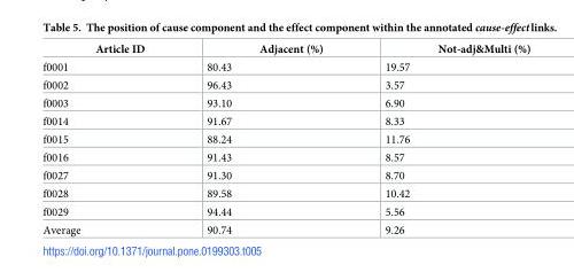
<table><thead><tr><td>Article ID</td><td>Adjacent (%)</td><td>Not-adj&amp;Multi (%)</td></tr></thead><tbody><tr><td>f0001</td><td>80.43</td><td>19.57</td></tr><tr><td>f0002</td><td>96.43</td><td>3.57</td></tr><tr><td>f0003</td><td>93.10</td><td>6.90</td></tr><tr><td>f0014</td><td>91.67</td><td>8.33</td></tr><tr><td>f0015</td><td>88.24</td><td>11.76</td></tr><tr><td>f0016</td><td>91.43</td><td>8.57</td></tr><tr><td>f0027</td><td>91.30</td><td>8.70</td></tr><tr><td>f0028</td><td>89.58</td><td>10.42</td></tr><tr><td>f0029</td><td>94.44</td><td>5.56</td></tr><tr><td>Average</td><td>90.74</td><td>9.26</td></tr></tbody></table>